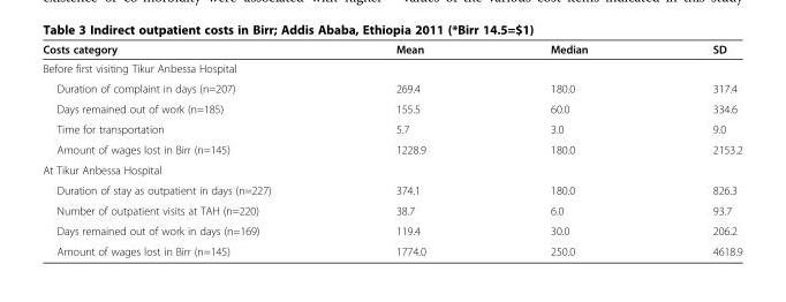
<table><thead><tr><td>Costs category</td><td>Mean</td><td>Median</td><td>SD</td></tr></thead><tbody><tr><td colspan="4">Before first visiting Tikur Anbessa Hospital</td></tr><tr><td>Duration of complaint in days (n=207)</td><td>269.4</td><td>180.0</td><td>317.4</td></tr><tr><td>Days remained out of work (n=185)</td><td>155.5</td><td>60.0</td><td>334.6</td></tr><tr><td>Time for transportation</td><td>5.7</td><td>3.0</td><td>9.0</td></tr><tr><td>Amount of wages lost in Birr (n=145)</td><td>1228.9</td><td>180.0</td><td>2153.2</td></tr><tr><td colspan="4">At Tikur Anbessa Hospital</td></tr><tr><td>Duration of stay as outpatient in days (n=227)</td><td>374.1</td><td>180.0</td><td>826.3</td></tr><tr><td>Number of outpatient visits at TAH (n=220)</td><td>38.7</td><td>6.0</td><td>93.7</td></tr><tr><td>Days remained out of work in days (n=169)</td><td>119.4</td><td>30.0</td><td>206.2</td></tr><tr><td>Amount of wages lost in Birr (n=145)</td><td>1774.0</td><td>250.0</td><td>4618.9</td></tr></tbody></table>